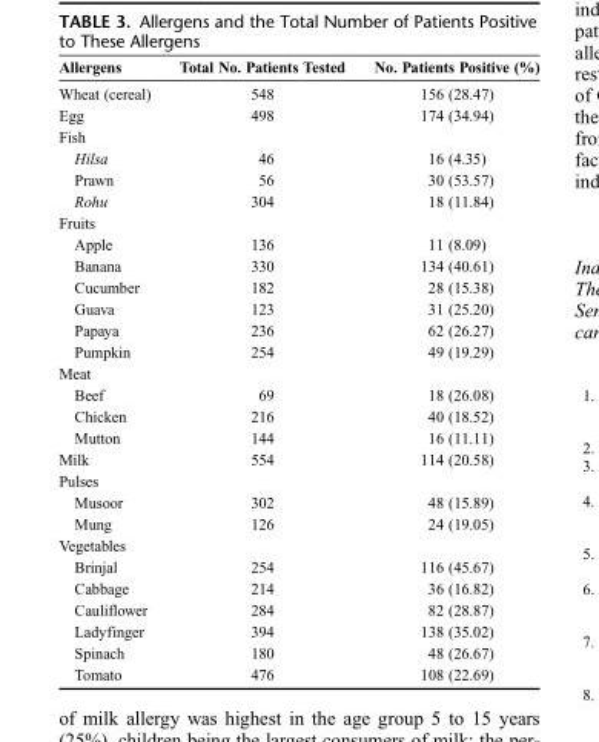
<table><thead><tr><td>Allergens</td><td>Total No. Patients Tested</td><td>No. Patients Positive (%)</td></tr></thead><tbody><tr><td>Wheat (cereal)</td><td>548</td><td>156 (28.47)</td></tr><tr><td>Egg</td><td>498</td><td>174 (34.94)</td></tr><tr><td colspan="3">Fish</td></tr><tr><td>Hilsa</td><td>46</td><td>16 (4.35)</td></tr><tr><td>Prawn</td><td>56</td><td>30 (53.57)</td></tr><tr><td>Rohu</td><td>304</td><td>18 (11.84)</td></tr><tr><td colspan="3">Fruits</td></tr><tr><td>Apple</td><td>136</td><td>11 (8.09)</td></tr><tr><td>Banana</td><td>330</td><td>134 (40.61)</td></tr><tr><td>Cucumber</td><td>182</td><td>28 (15.38)</td></tr><tr><td>Guava</td><td>123</td><td>31 (25.20)</td></tr><tr><td>Papaya</td><td>236</td><td>62 (26.27)</td></tr><tr><td>Pumpkin</td><td>254</td><td>49 (19.29)</td></tr><tr><td colspan="3">Meat</td></tr><tr><td>Beef</td><td>69</td><td>18 (26.08)</td></tr><tr><td>Chicken</td><td>216</td><td>40 (18.52)</td></tr><tr><td>Mutton</td><td>144</td><td>16 (11.11)</td></tr><tr><td>Milk</td><td>554</td><td>114 (20.58)</td></tr><tr><td colspan="3">Pulses</td></tr><tr><td>Musoor</td><td>302</td><td>48 (15.89)</td></tr><tr><td>Mung</td><td>126</td><td>24 (19.05)</td></tr><tr><td colspan="3">Vegetables</td></tr><tr><td>Brinjal</td><td>254</td><td>116 (45.67)</td></tr><tr><td>Cabbage</td><td>214</td><td>36 (16.82)</td></tr><tr><td>Cauliflower</td><td>284</td><td>82 (28.87)</td></tr><tr><td>Ladyfinger</td><td>394</td><td>138 (35.02)</td></tr><tr><td>Spinach</td><td>180</td><td>48 (26.67)</td></tr><tr><td>Tomato</td><td>476</td><td>108 (22.69)</td></tr></tbody></table>